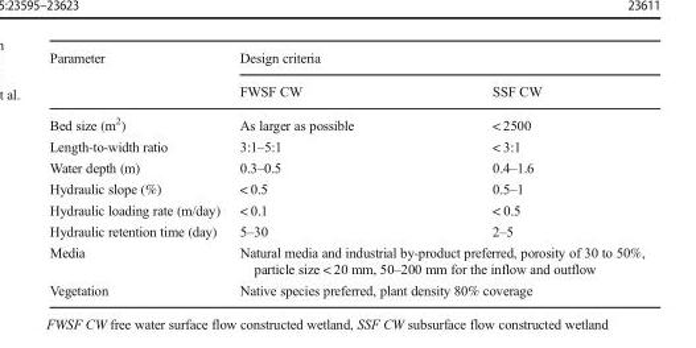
<table><thead><tr><td rowspan="2">Parameter</td><td colspan="2">Design criteria</td></tr><tr><td>FWSF CW</td><td>SSF CW</td></tr></thead><tbody><tr><td>Bed size (m<sup>2</sup>)</td><td>As larger as possible</td><td>&lt; 2500</td></tr><tr><td>Length-to-width ratio</td><td>3:1–5:1</td><td>&lt; 3:1</td></tr><tr><td>Water depth (m)</td><td>0.3–0.5</td><td>0.4–1.6</td></tr><tr><td>Hydraulic slope (%)</td><td>&lt; 0.5</td><td>0.5–1</td></tr><tr><td>Hydraulic loading rate (m/day)</td><td>&lt; 0.1</td><td>&lt; 0.5</td></tr><tr><td>Hydraulic retention time (day)</td><td>5–30</td><td>2–5</td></tr><tr><td>Media</td><td colspan="2">Natural media and industrial by-product preferred, porosity of 30 to 50%, particle size &lt; 20 mm, 50–200 mm for the inflow and outflow</td></tr><tr><td>Vegetation</td><td colspan="2">Native species preferred, plant density 80% coverage</td></tr></tbody></table>